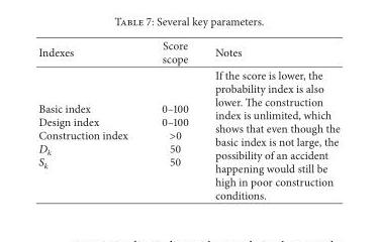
<table><thead><tr><td>Indexes</td><td>Score scope</td><td>Notes</td></tr></thead><tbody><tr><td>Basic index Design index Construction index 𝐷<sub>𝑘</sub> 𝑆<sub>𝑘</sub></td><td>0–100 0–100 &gt;0 50 50</td><td>If the score is lower, the probability index is also lower. The construction index is unlimited, which shows that even though the basic index is not large, the possibility of an accident happening would still be high in poor construction conditions.</td></tr></tbody></table>